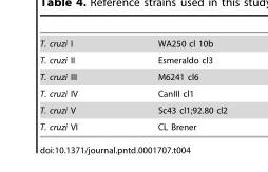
<table><tbody><tr><td>T. cruzi I</td><td>WA250 cl 10b</td></tr><tr><td>T. cruzi II</td><td>Esmeraldo cl3</td></tr><tr><td>T. cruzi III</td><td>M6241 cl6</td></tr><tr><td>T. cruzi IV</td><td>CanIII cl1</td></tr><tr><td>T. cruzi V</td><td>Sc43 cl1;92.80 cl2</td></tr><tr><td>T. cruzi VI</td><td>CL Brener</td></tr></tbody></table>